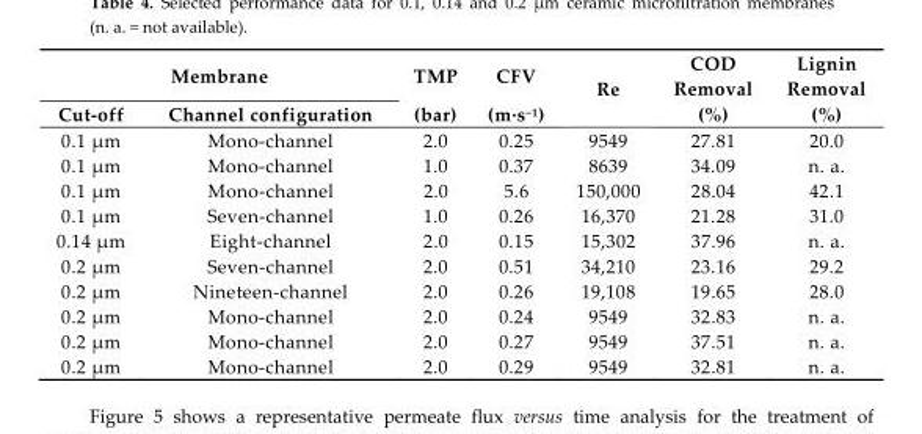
<table><thead><tr><td colspan="2">Membrane</td><td rowspan="2">TMP (bar)</td><td rowspan="2">CFV (m·s<sup>−1</sup>)</td><td rowspan="2">Re</td><td rowspan="2">COD Removal (%)</td><td rowspan="2">Lignin Removal (%)</td></tr><tr><td>Cut-off</td><td>Channel configuration</td></tr></thead><tbody><tr><td>0.1 µm</td><td>Mono-channel</td><td>2.0</td><td>0.25</td><td>9549</td><td>27.81</td><td>20.0</td></tr><tr><td>0.1 µm</td><td>Mono-channel</td><td>1.0</td><td>0.37</td><td>8639</td><td>34.09</td><td>n. a.</td></tr><tr><td>0.1 µm</td><td>Mono-channel</td><td>2.0</td><td>5.6</td><td>150,000</td><td>28.04</td><td>42.1</td></tr><tr><td>0.1 µm</td><td>Seven-channel</td><td>1.0</td><td>0.26</td><td>16,370</td><td>21.28</td><td>31.0</td></tr><tr><td>0.14 µm</td><td>Eight-channel</td><td>2.0</td><td>0.15</td><td>15,302</td><td>37.96</td><td>n. a.</td></tr><tr><td>0.2 µm</td><td>Seven-channel</td><td>2.0</td><td>0.51</td><td>34,210</td><td>23.16</td><td>29.2</td></tr><tr><td>0.2 µm</td><td>Nineteen-channel</td><td>2.0</td><td>0.26</td><td>19,108</td><td>19.65</td><td>28.0</td></tr><tr><td>0.2 µm</td><td>Mono-channel</td><td>2.0</td><td>0.24</td><td>9549</td><td>32.83</td><td>n. a.</td></tr><tr><td>0.2 µm</td><td>Mono-channel</td><td>2.0</td><td>0.27</td><td>9549</td><td>37.51</td><td>n. a.</td></tr><tr><td>0.2 µm</td><td>Mono-channel</td><td>2.0</td><td>0.29</td><td>9549</td><td>32.81</td><td>n. a.</td></tr></tbody></table>